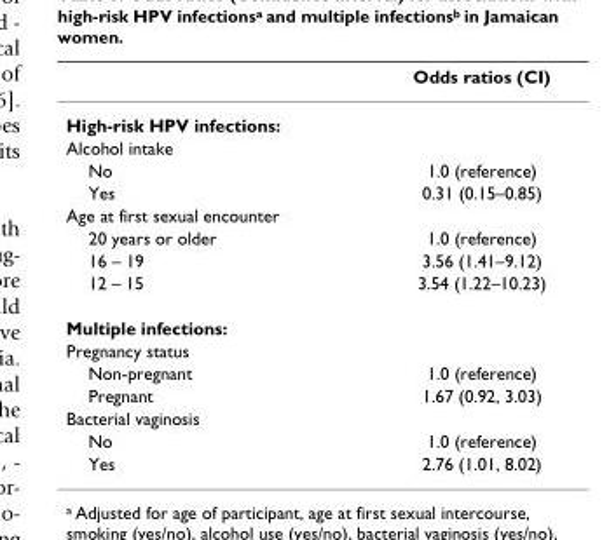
<table><thead><tr><td></td><td>Odds ratios (CI)</td></tr></thead><tbody><tr><td colspan="2">High-risk HPV infections:</td></tr><tr><td colspan="2">Alcohol intake</td></tr><tr><td>No</td><td>1.0 (reference)</td></tr><tr><td>Yes</td><td>0.31 (0.15–0.85)</td></tr><tr><td colspan="2">Age at first sexual encounter</td></tr><tr><td>20 years or older</td><td>1.0 (reference)</td></tr><tr><td>16 – 19</td><td>3.56 (1.41–9.12)</td></tr><tr><td>12 – 15</td><td>3.54 (1.22–10.23)</td></tr><tr><td colspan="2">Multiple infections:</td></tr><tr><td colspan="2">Pregnancy status</td></tr><tr><td>Non-pregnant</td><td>1.0 (reference)</td></tr><tr><td>Pregnant</td><td>1.67 (0.92, 3.03)</td></tr><tr><td colspan="2">Bacterial vaginosis</td></tr><tr><td>No</td><td>1.0 (reference)</td></tr><tr><td>Yes</td><td>2.76 (1.01, 8.02)</td></tr></tbody></table>